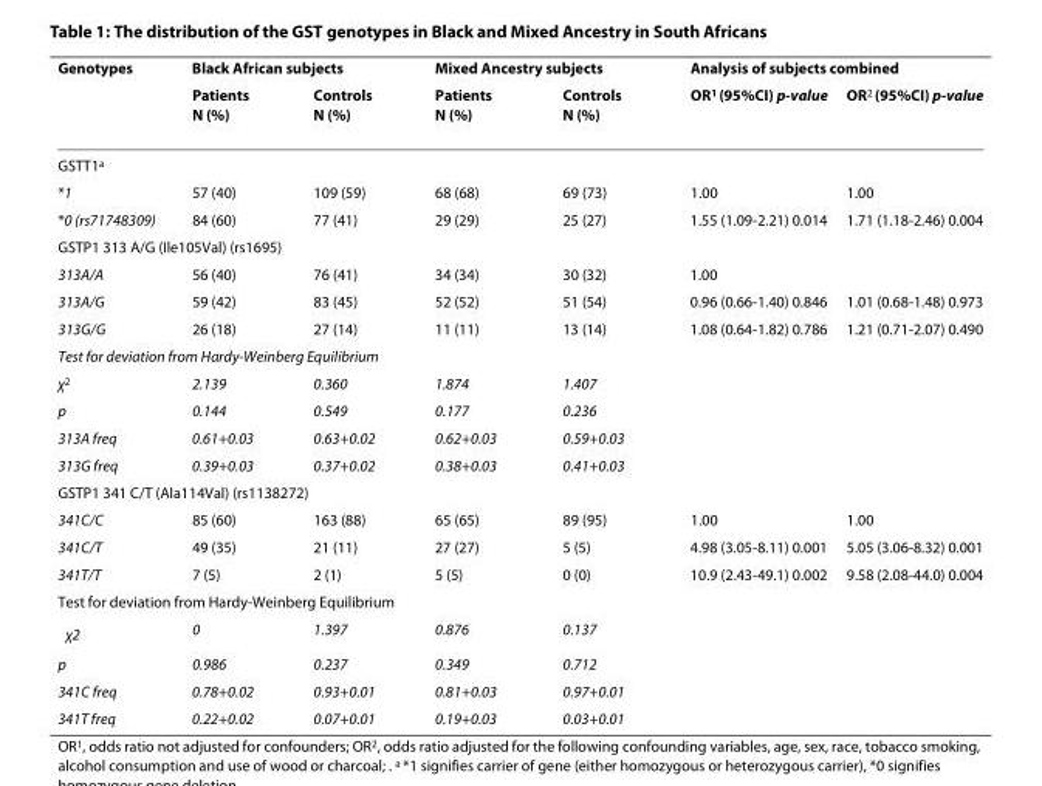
<table><thead><tr><td rowspan="2">Genotypes</td><td colspan="2">Black African subjects</td><td colspan="2">Mixed Ancestry subjects</td><td colspan="2">Analysis of subjects combined</td></tr><tr><td>Patients N (%)</td><td>Controls N (%)</td><td>Patients N (%)</td><td>Controls N (%)</td><td>OR<sup>1</sup> (95%CI) p-value</td><td>OR<sup>2</sup> (95%CI) p-value</td></tr></thead><tbody><tr><td colspan="7">GSTT1<sup>a</sup></td></tr><tr><td>*1</td><td>57 (40)</td><td>109 (59)</td><td>68 (68)</td><td>69 (73)</td><td>1.00</td><td>1.00</td></tr><tr><td>*0 (rs71748309)</td><td>84 (60)</td><td>77 (41)</td><td>29 (29)</td><td>25 (27)</td><td>1.55 (1.09-2.21) 0.014</td><td>1.71 (1.18-2.46) 0.004</td></tr><tr><td colspan="7">GSTP1 313 A/G (Ile105Val) (rs1695)</td></tr><tr><td>313A/A</td><td>56 (40)</td><td>76 (41)</td><td>34 (34)</td><td>30 (32)</td><td>1.00</td><td></td></tr><tr><td>313A/G</td><td>59 (42)</td><td>83 (45)</td><td>52 (52)</td><td>51 (54)</td><td>0.96 (0.66-1.40) 0.846</td><td>1.01 (0.68-1.48) 0.973</td></tr><tr><td>313G/G</td><td>26 (18)</td><td>27 (14)</td><td>11 (11)</td><td>13 (14)</td><td>1.08 (0.64-1.82) 0.786</td><td>1.21 (0.71-2.07) 0.490</td></tr><tr><td colspan="7">Test for deviation from Hardy-Weinberg Equilibrium</td></tr><tr><td>χ<sup>2</sup></td><td>2.139</td><td>0.360</td><td>1.874</td><td>1.407</td><td></td><td></td></tr><tr><td>p</td><td>0.144</td><td>0.549</td><td>0.177</td><td>0.236</td><td></td><td></td></tr><tr><td>313A freq</td><td>0.61+0.03</td><td>0.63+0.02</td><td>0.62+0.03</td><td>0.59+0.03</td><td></td><td></td></tr><tr><td>313G freq</td><td>0.39+0.03</td><td>0.37+0.02</td><td>0.38+0.03</td><td>0.41+0.03</td><td></td><td></td></tr><tr><td colspan="7">GSTP1 341 C/T (Ala114Val) (rs1138272)</td></tr><tr><td>341C/C</td><td>85 (60)</td><td>163 (88)</td><td>65 (65)</td><td>89 (95)</td><td>1.00</td><td>1.00</td></tr><tr><td>341C/T</td><td>49 (35)</td><td>21 (11)</td><td>27 (27)</td><td>5 (5)</td><td>4.98 (3.05-8.11) 0.001</td><td>5.05 (3.06-8.32) 0.001</td></tr><tr><td>341T/T</td><td>7 (5)</td><td>2 (1)</td><td>5 (5)</td><td>0 (0)</td><td>10.9 (2.43-49.1) 0.002</td><td>9.58 (2.08-44.0) 0.004</td></tr><tr><td colspan="7">Test for deviation from Hardy-Weinberg Equilibrium</td></tr><tr><td>χ<sup>2</sup></td><td>0</td><td>1.397</td><td>0.876</td><td>0.137</td><td></td><td></td></tr><tr><td>p</td><td>0.986</td><td>0.237</td><td>0.349</td><td>0.712</td><td></td><td></td></tr><tr><td>341C freq</td><td>0.78+0.02</td><td>0.93+0.01</td><td>0.81+0.03</td><td>0.97+0.01</td><td></td><td></td></tr><tr><td>341T freq</td><td>0.22+0.02</td><td>0.07+0.01</td><td>0.19+0.03</td><td>0.03+0.01</td><td></td><td></td></tr></tbody></table>